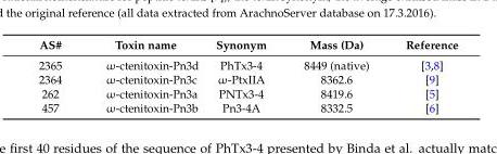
<table><thead><tr><td>AS#</td><td>Toxin name</td><td>Synonym</td><td>Mass (Da)</td><td>Reference</td></tr></thead><tbody><tr><td>2365</td><td>ω-ctenitoxin-Pn3d</td><td>PhTx3-4</td><td>8449 (native)</td><td>[3,8]</td></tr><tr><td>2364</td><td>ω-ctenitoxin-Pn3c</td><td>ω-PtxIIA</td><td>8362.6</td><td>[9]</td></tr><tr><td>262</td><td>ω-ctenitoxin-Pn3a</td><td>PNTx3-4</td><td>8419.6</td><td>[5]</td></tr><tr><td>457</td><td>ω-ctenitoxin-Pn3b</td><td>Pn3-4A</td><td>8332.5</td><td>[6]</td></tr></tbody></table>